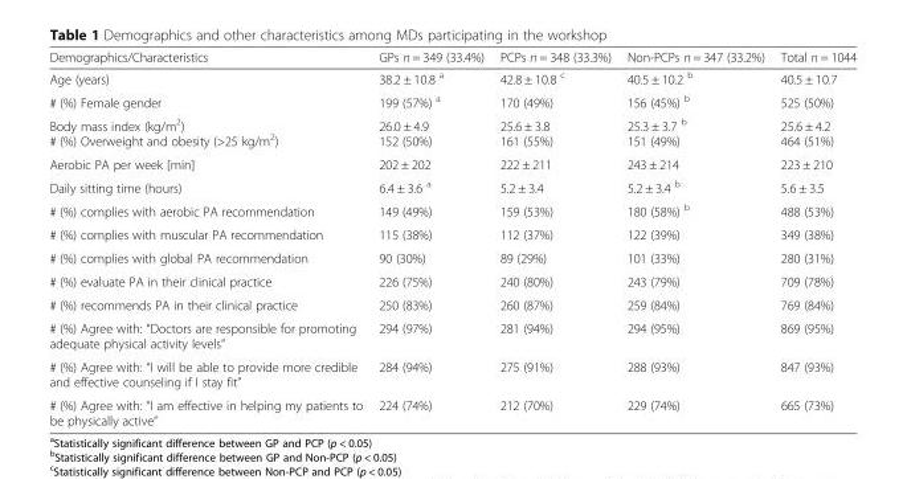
<table><thead><tr><td>Demographics/Characteristics</td><td>GPs n = 349 (33.4%)</td><td>PCPs n = 348 (33.3%)</td><td>Non-PCPs n = 347 (33.2%)</td><td>Total n = 1044</td></tr></thead><tbody><tr><td>Age (years)</td><td>38.2 ± 10.8 <sup>a</sup></td><td>42.8 ± 10.8 <sup>c</sup></td><td>40.5 ± 10.2 <sup>b</sup></td><td>40.5 ± 10.7</td></tr><tr><td># (%) Female gender</td><td>199 (57%) <sup>a</sup></td><td>170 (49%)</td><td>156 (45%) <sup>b</sup></td><td>525 (50%)</td></tr><tr><td>Body mass index (kg/m<sup>2</sup>) # (%) Overweight and obesity (&gt;25 kg/m<sup>2</sup>)</td><td>26.0 ± 4.9 152 (50%)</td><td>25.6 ± 3.8 161 (55%)</td><td>25.3 ± 3.7 <sup>b</sup> 151 (49%)</td><td>25.6 ± 4.2 464 (51%)</td></tr><tr><td>Aerobic PA per week [min]</td><td>202 ± 202</td><td>222 ± 211</td><td>243 ± 214</td><td>223 ± 210</td></tr><tr><td>Daily sitting time (hours)</td><td>6.4 ± 3.6 <sup>a</sup></td><td>5.2 ± 3.4</td><td>5.2 ± 3.4 <sup>b</sup></td><td>5.6 ± 3.5</td></tr><tr><td># (%) complies with aerobic PA recommendation</td><td>149 (49%)</td><td>159 (53%)</td><td>180 (58%) <sup>b</sup></td><td>488 (53%)</td></tr><tr><td># (%) complies with muscular PA recommendation</td><td>115 (38%)</td><td>112 (37%)</td><td>122 (39%)</td><td>349 (38%)</td></tr><tr><td># (%) complies with global PA recommendation</td><td>90 (30%)</td><td>89 (29%)</td><td>101 (33%)</td><td>280 (31%)</td></tr><tr><td># (%) evaluate PA in their clinical practice</td><td>226 (75%)</td><td>240 (80%)</td><td>243 (79%)</td><td>709 (78%)</td></tr><tr><td># (%) recommends PA in their clinical practice</td><td>250 (83%)</td><td>260 (87%)</td><td>259 (84%)</td><td>769 (84%)</td></tr><tr><td># (%) Agree with: “Doctors are responsible for promoting adequate physical activity levels”</td><td>294 (97%)</td><td>281 (94%)</td><td>294 (95%)</td><td>869 (95%)</td></tr><tr><td># (%) Agree with: “I will be able to provide more credible and effective counseling if I stay fit”</td><td>284 (94%)</td><td>275 (91%)</td><td>288 (93%)</td><td>847 (93%)</td></tr><tr><td># (%) Agree with: “I am effective in helping my patients to be physically active”</td><td>224 (74%)</td><td>212 (70%)</td><td>229 (74%)</td><td>665 (73%)</td></tr></tbody></table>